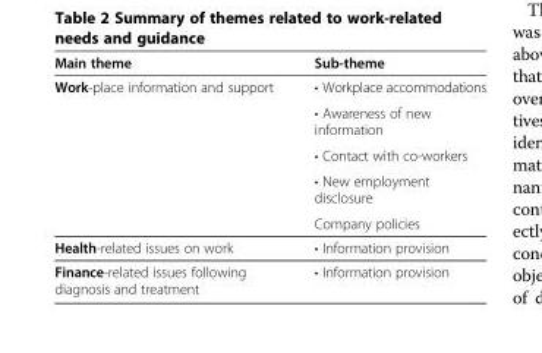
<table><thead><tr><td>Main theme</td><td>Sub-theme</td></tr></thead><tbody><tr><td rowspan="5">Work-place information and support</td><td>• Workplace accommodations</td></tr><tr><td>• Awareness of new information</td></tr><tr><td>• Contact with co-workers</td></tr><tr><td>• New employment disclosure</td></tr><tr><td>Company policies</td></tr><tr><td>Health-related issues on work</td><td>• Information provision</td></tr><tr><td>Finance-related issues following diagnosis and treatment</td><td>• Information provision</td></tr></tbody></table>